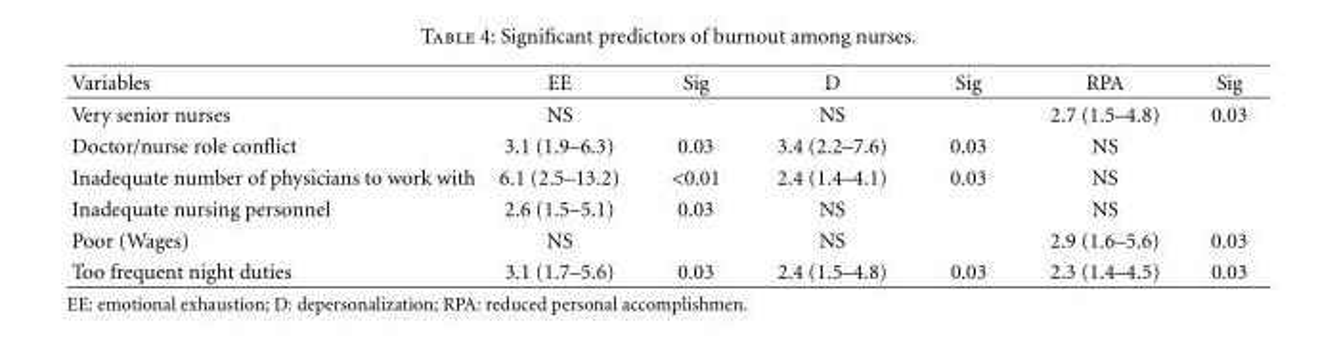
<table><thead><tr><td>Variables</td><td>EE</td><td>Sig</td><td>D</td><td>Sig</td><td>RPA</td><td>Sig</td></tr></thead><tbody><tr><td>Very senior nurses</td><td>NS</td><td></td><td>NS</td><td></td><td>2.7 (1.5–4.8)</td><td>0.03</td></tr><tr><td>Doctor/nurse role conflict</td><td>3.1 (1.9–6.3)</td><td>0.03</td><td>3.4 (2.2–7.6)</td><td>0.03</td><td>NS</td><td></td></tr><tr><td>Inadequate number of physicians to work with</td><td>6.1 (2.5–13.2)</td><td>&lt;0.01</td><td>2.4 (1.4–4.1)</td><td>0.03</td><td>NS</td><td></td></tr><tr><td>Inadequate nursing personnel</td><td>2.6 (1.5–5.1)</td><td>0.03</td><td>NS</td><td></td><td>NS</td><td></td></tr><tr><td>Poor (Wages)</td><td>NS</td><td></td><td>NS</td><td></td><td>2.9 (1.6–5.6)</td><td>0.03</td></tr><tr><td>Too frequent night duties</td><td>3.1 (1.7–5.6)</td><td>0.03</td><td>2.4 (1.5–4.8)</td><td>0.03</td><td>2.3 (1.4–4.5)</td><td>0.03</td></tr></tbody></table>